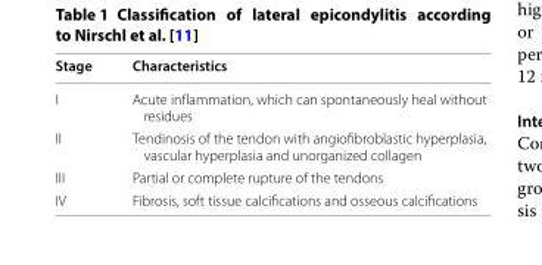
<table><thead><tr><td>Stage</td><td>Characteristics</td></tr></thead><tbody><tr><td>I</td><td>Acute inflammation, which can spontaneously heal without residues</td></tr><tr><td>II</td><td>Tendinosis of the tendon with angiofibroblastic hyperplasia, vascular hyperplasia and unorganized collagen</td></tr><tr><td>III</td><td>Partial or complete rupture of the tendons</td></tr><tr><td>IV</td><td>Fibrosis, soft tissue calcifications and osseous calcifications</td></tr></tbody></table>